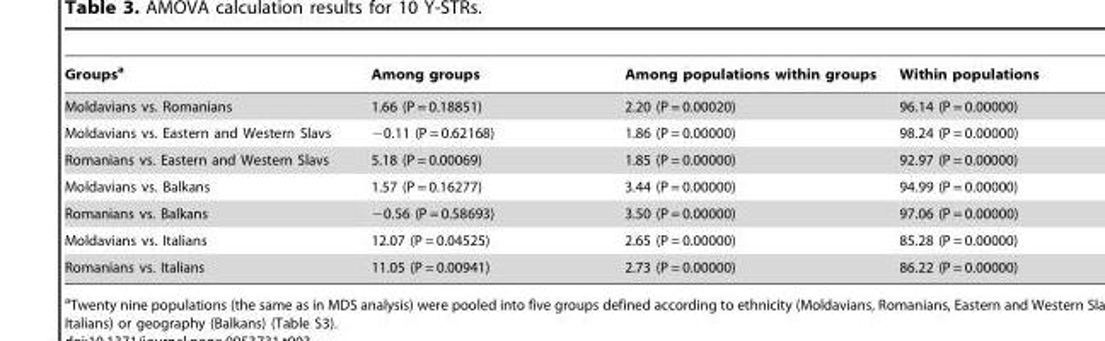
<table><thead><tr><td>Groups<sup>a</sup></td><td>Among groups</td><td>Among populations within groups</td><td>Within populations</td></tr></thead><tbody><tr><td>Moldavians vs. Romanians</td><td>1.66 (P = 0.18851)</td><td>2.20 (P = 0.00020)</td><td>96.14 (P = 0.00000)</td></tr><tr><td>Moldavians vs. Eastern and Western Slavs</td><td>−0.11 (P = 0.62168)</td><td>1.86 (P = 0.00000)</td><td>98.24 (P = 0.00000)</td></tr><tr><td>Romanians vs. Eastern and Western Slavs</td><td>5.18 (P = 0.00069)</td><td>1.85 (P = 0.00000)</td><td>92.97 (P = 0.00000)</td></tr><tr><td>Moldavians vs. Balkans</td><td>1.57 (P = 0.16277)</td><td>3.44 (P = 0.00000)</td><td>94.99 (P = 0.00000)</td></tr><tr><td>Romanians vs. Balkans</td><td>−0.56 (P = 0.58693)</td><td>3.50 (P = 0.00000)</td><td>97.06 (P = 0.00000)</td></tr><tr><td>Moldavians vs. Italians</td><td>12.07 (P = 0.04525)</td><td>2.65 (P = 0.00000)</td><td>85.28 (P = 0.00000)</td></tr><tr><td>Romanians vs. Italians</td><td>11.05 (P = 0.00941)</td><td>2.73 (P = 0.00000)</td><td>86.22 (P = 0.00000)</td></tr></tbody></table>